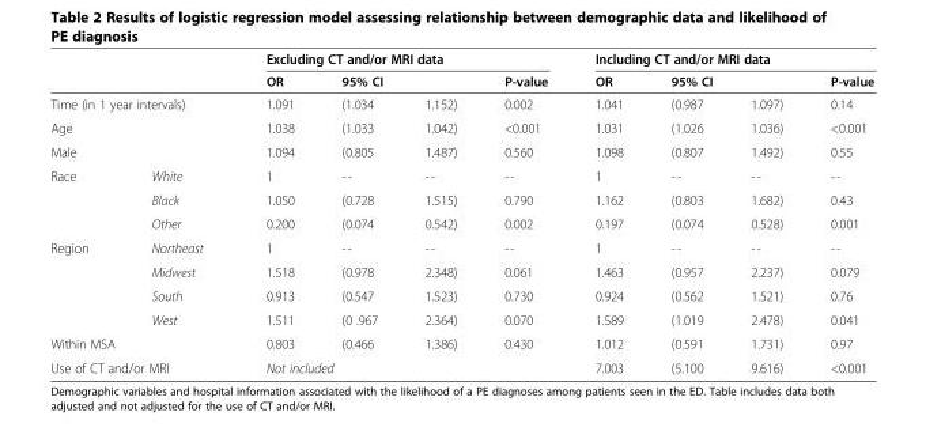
<table><thead><tr><td rowspan="2"></td><td rowspan="2"></td><td colspan="4">Excluding CT and/or MRI data</td><td colspan="4">Including CT and/or MRI data</td></tr><tr><td rowspan="2">OR 1.091</td><td colspan="2">95% CI</td><td rowspan="2">P-value 0.002</td><td rowspan="2">OR 1.041</td><td colspan="2">95% CI</td><td rowspan="2">P-value 0.14</td></tr><tr><td colspan="2">Time (in 1 year intervals)</td><td>(1.034</td><td>1.152)</td><td>(0.987</td><td>1.097)</td></tr></thead><tbody><tr><td>Age</td><td></td><td>1.038</td><td>(1.033</td><td>1.042)</td><td>&lt;0.001</td><td>1.031</td><td>(1.026</td><td>1.036)</td><td>&lt;0.001</td></tr><tr><td>Male</td><td></td><td>1.094</td><td>(0.805</td><td>1.487)</td><td>0.560</td><td>1.098</td><td>(0.807</td><td>1.492)</td><td>0.55</td></tr><tr><td rowspan="3">Race</td><td>White</td><td>1</td><td>--</td><td>--</td><td>--</td><td>1</td><td>--</td><td>--</td><td>--</td></tr><tr><td>Black</td><td>1.050</td><td>(0.728</td><td>1.515)</td><td>0.790</td><td>1.162</td><td>(0.803</td><td>1.682)</td><td>0.43</td></tr><tr><td>Other</td><td>0.200</td><td>(0.074</td><td>0.542)</td><td>0.002</td><td>0.197</td><td>(0.074</td><td>0.528)</td><td>0.001</td></tr><tr><td rowspan="4">Region</td><td>Northeast</td><td>1</td><td>--</td><td>--</td><td>--</td><td>1</td><td>--</td><td>--</td><td>--</td></tr><tr><td>Midwest</td><td>1.518</td><td>(0.978</td><td>2.348)</td><td>0.061</td><td>1.463</td><td>(0.957</td><td>2.237)</td><td>0.079</td></tr><tr><td>South</td><td>0.913</td><td>(0.547</td><td>1.523)</td><td>0.730</td><td>0.924</td><td>(0.562</td><td>1.521)</td><td>0.76</td></tr><tr><td>West</td><td>1.511</td><td>(0 .967</td><td>2.364)</td><td>0.070</td><td>1.589</td><td>(1.019</td><td>2.478)</td><td>0.041</td></tr><tr><td colspan="2">Within MSA</td><td>0.803</td><td>(0.466</td><td>1.386)</td><td>0.430</td><td>1.012</td><td>(0.591</td><td>1.731)</td><td>0.97</td></tr><tr><td colspan="2">Use of CT and/or MRI</td><td colspan="4">Not included</td><td>7.003</td><td>(5.100</td><td>9.616)</td><td>&lt;0.001</td></tr></tbody></table>